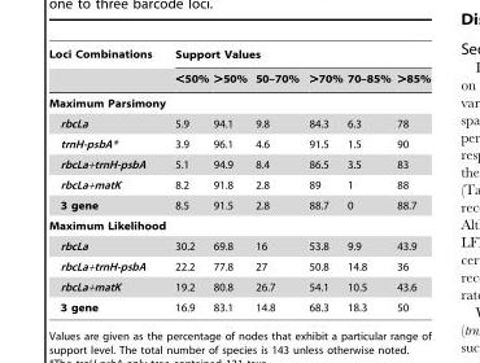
<table><thead><tr><td rowspan="2">Loci Combinations</td><td colspan="6">Support Values</td></tr><tr><td>&lt;50%</td><td>&gt;50%</td><td>50–70%</td><td>&gt;70%</td><td>70–85%</td><td>&gt;85%</td></tr></thead><tbody><tr><td colspan="7">Maximum Parsimony</td></tr><tr><td>rbcLa</td><td>5.9</td><td>94.1</td><td>9.8</td><td>84.3</td><td>6.3</td><td>78</td></tr><tr><td>trnH-psbA*</td><td>3.9</td><td>96.1</td><td>4.6</td><td>91.5</td><td>1.5</td><td>90</td></tr><tr><td>rbcLa+trnH-psbA</td><td>5.1</td><td>94.9</td><td>8.4</td><td>86.5</td><td>3.5</td><td>83</td></tr><tr><td>rbcLa+matK</td><td>8.2</td><td>91.8</td><td>2.8</td><td>89</td><td>1</td><td>88</td></tr><tr><td>3 gene</td><td>8.5</td><td>91.5</td><td>2.8</td><td>88.7</td><td>0</td><td>88.7</td></tr><tr><td colspan="7">Maximum Likelihood</td></tr><tr><td>rbcLa</td><td>30.2</td><td>69.8</td><td>16</td><td>53.8</td><td>9.9</td><td>43.9</td></tr><tr><td>rbcLa+trnH-psbA</td><td>22.2</td><td>77.8</td><td>27</td><td>50.8</td><td>14.8</td><td>36</td></tr><tr><td>rbcLa+matK</td><td>19.2</td><td>80.8</td><td>26.7</td><td>54.1</td><td>10.5</td><td>43.6</td></tr><tr><td>3 gene</td><td>16.9</td><td>83.1</td><td>14.8</td><td>68.3</td><td>18.3</td><td>50</td></tr></tbody></table>